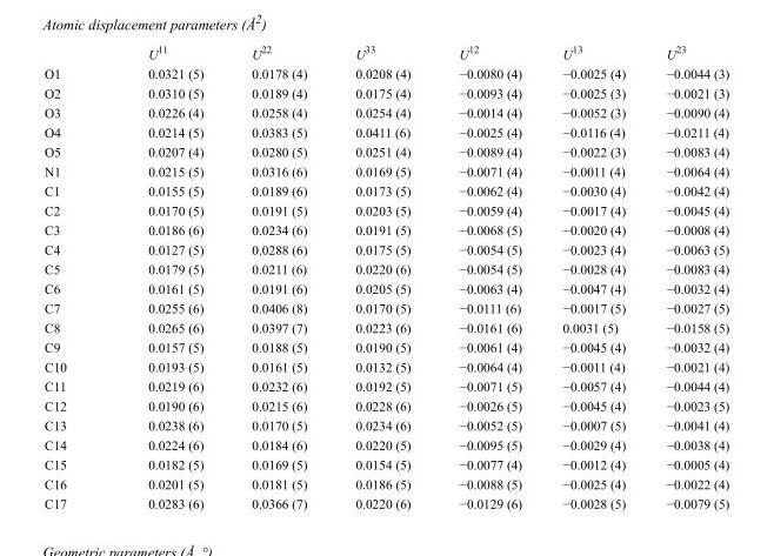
<table><thead><tr><td></td><td>U<sup>11</sup></td><td>U<sup>22</sup></td><td>U<sup>33</sup></td><td>U<sup>12</sup></td><td>U<sup>13</sup></td><td>U<sup>23</sup></td></tr></thead><tbody><tr><td>O1</td><td>0.0321 (5)</td><td>0.0178 (4)</td><td>0.0208 (4)</td><td>−0.0080 (4)</td><td>−0.0025 (4)</td><td>−0.0044 (3)</td></tr><tr><td>O2</td><td>0.0310 (5)</td><td>0.0189 (4)</td><td>0.0175 (4)</td><td>−0.0093 (4)</td><td>−0.0025 (3)</td><td>−0.0021 (3)</td></tr><tr><td>O3</td><td>0.0226 (4)</td><td>0.0258 (4)</td><td>0.0254 (4)</td><td>−0.0014 (4)</td><td>−0.0052 (3)</td><td>−0.0090 (4)</td></tr><tr><td>O4</td><td>0.0214 (5)</td><td>0.0383 (5)</td><td>0.0411 (6)</td><td>−0.0025 (4)</td><td>−0.0116 (4)</td><td>−0.0211 (4)</td></tr><tr><td>O5</td><td>0.0207 (4)</td><td>0.0280 (5)</td><td>0.0251 (4)</td><td>−0.0089 (4)</td><td>−0.0022 (3)</td><td>−0.0083 (4)</td></tr><tr><td>N1</td><td>0.0215 (5)</td><td>0.0316 (6)</td><td>0.0169 (5)</td><td>−0.0071 (4)</td><td>−0.0011 (4)</td><td>−0.0064 (4)</td></tr><tr><td>C1</td><td>0.0155 (5)</td><td>0.0189 (6)</td><td>0.0173 (5)</td><td>−0.0062 (4)</td><td>−0.0030 (4)</td><td>−0.0042 (4)</td></tr><tr><td>C2</td><td>0.0170 (5)</td><td>0.0191 (5)</td><td>0.0203 (5)</td><td>−0.0059 (4)</td><td>−0.0017 (4)</td><td>−0.0045 (4)</td></tr><tr><td>C3</td><td>0.0186 (6)</td><td>0.0234 (6)</td><td>0.0191 (5)</td><td>−0.0068 (5)</td><td>−0.0020 (4)</td><td>−0.0008 (4)</td></tr><tr><td>C4</td><td>0.0127 (5)</td><td>0.0288 (6)</td><td>0.0175 (5)</td><td>−0.0054 (5)</td><td>−0.0023 (4)</td><td>−0.0063 (5)</td></tr><tr><td>C5</td><td>0.0179 (5)</td><td>0.0211 (6)</td><td>0.0220 (6)</td><td>−0.0054 (5)</td><td>−0.0028 (4)</td><td>−0.0083 (4)</td></tr><tr><td>C6</td><td>0.0161 (5)</td><td>0.0191 (6)</td><td>0.0205 (5)</td><td>−0.0063 (4)</td><td>−0.0047 (4)</td><td>−0.0032 (4)</td></tr><tr><td>C7</td><td>0.0255 (6)</td><td>0.0406 (8)</td><td>0.0170 (5)</td><td>−0.0111 (6)</td><td>−0.0017 (5)</td><td>−0.0027 (5)</td></tr><tr><td>C8</td><td>0.0265 (6)</td><td>0.0397 (7)</td><td>0.0223 (6)</td><td>−0.0161 (6)</td><td>0.0031 (5)</td><td>−0.0158 (5)</td></tr><tr><td>C9</td><td>0.0157 (5)</td><td>0.0188 (5)</td><td>0.0190 (5)</td><td>−0.0061 (4)</td><td>−0.0045 (4)</td><td>−0.0032 (4)</td></tr><tr><td>C10</td><td>0.0193 (5)</td><td>0.0161 (5)</td><td>0.0132 (5)</td><td>−0.0064 (4)</td><td>−0.0011 (4)</td><td>−0.0021 (4)</td></tr><tr><td>C11</td><td>0.0219 (6)</td><td>0.0232 (6)</td><td>0.0192 (5)</td><td>−0.0071 (5)</td><td>−0.0057 (4)</td><td>−0.0044 (4)</td></tr><tr><td>C12</td><td>0.0190 (6)</td><td>0.0215 (6)</td><td>0.0228 (6)</td><td>−0.0026 (5)</td><td>−0.0045 (4)</td><td>−0.0023 (5)</td></tr><tr><td>C13</td><td>0.0238 (6)</td><td>0.0170 (5)</td><td>0.0234 (6)</td><td>−0.0052 (5)</td><td>−0.0007 (5)</td><td>−0.0041 (4)</td></tr><tr><td>C14</td><td>0.0224 (6)</td><td>0.0184 (6)</td><td>0.0220 (5)</td><td>−0.0095 (5)</td><td>−0.0029 (4)</td><td>−0.0038 (4)</td></tr><tr><td>C15</td><td>0.0182 (5)</td><td>0.0169 (5)</td><td>0.0154 (5)</td><td>−0.0077 (4)</td><td>−0.0012 (4)</td><td>−0.0005 (4)</td></tr><tr><td>C16</td><td>0.0201 (5)</td><td>0.0181 (5)</td><td>0.0186 (5)</td><td>−0.0088 (5)</td><td>−0.0025 (4)</td><td>−0.0022 (4)</td></tr><tr><td>C17</td><td>0.0283 (6)</td><td>0.0366 (7)</td><td>0.0220 (6)</td><td>−0.0129 (6)</td><td>−0.0028 (5)</td><td>−0.0079 (5)</td></tr></tbody></table>